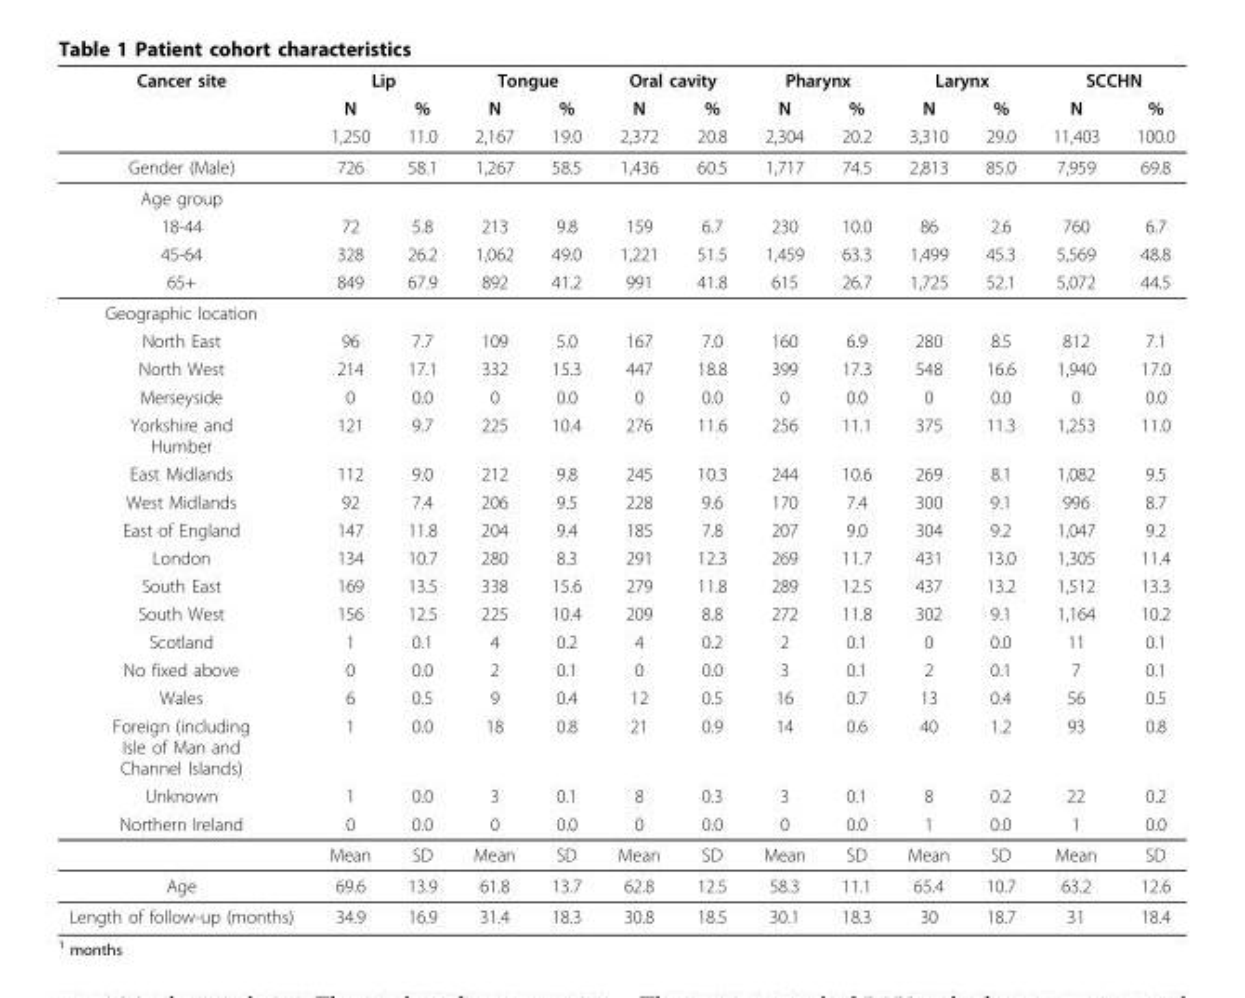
<table><thead><tr><td rowspan="3">Cancer site</td><td colspan="2">Lip</td><td colspan="2">Tongue</td><td colspan="2">Oral cavity</td><td colspan="2">Pharynx</td><td colspan="2">Larynx</td><td colspan="2">SCCHN</td></tr><tr><td rowspan="2">N 1,250</td><td rowspan="2">% 11.0</td><td rowspan="2">N 2,167</td><td rowspan="2">% 19.0</td><td rowspan="2">N 2,372</td><td rowspan="2">% 20.8</td><td rowspan="2">N 2,304</td><td rowspan="2">% 20.2</td><td rowspan="2">N 3,310</td><td rowspan="2">% 29.0</td><td rowspan="2">N 11,403</td><td rowspan="2">% 100.0</td></tr><tr></tr></thead><tbody><tr><td>Gender (Male)</td><td>726</td><td>58.1</td><td>1,267</td><td>58.5</td><td>1,436</td><td>60.5</td><td>1,717</td><td>74.5</td><td>2,813</td><td>85.0</td><td>7,959</td><td>69.8</td></tr><tr><td colspan="13">Age group</td></tr><tr><td>18-44</td><td>72</td><td>5.8</td><td>213</td><td>9.8</td><td>159</td><td>6.7</td><td>230</td><td>10.0</td><td>86</td><td>2.6</td><td>760</td><td>6.7</td></tr><tr><td>45-64</td><td>328</td><td>26.2</td><td>1,062</td><td>49.0</td><td>1,221</td><td>51.5</td><td>1,459</td><td>63.3</td><td>1,499</td><td>45.3</td><td>5,569</td><td>48.8</td></tr><tr><td>65+</td><td>849</td><td>67.9</td><td>892</td><td>41.2</td><td>991</td><td>41.8</td><td>615</td><td>26.7</td><td>1,725</td><td>52.1</td><td>5,072</td><td>44.5</td></tr><tr><td colspan="13">Geographic location</td></tr><tr><td>North East</td><td>96</td><td>7.7</td><td>109</td><td>5.0</td><td>167</td><td>7.0</td><td>160</td><td>6.9</td><td>280</td><td>8.5</td><td>812</td><td>7.1</td></tr><tr><td>North West</td><td>214</td><td>17.1</td><td>332</td><td>15.3</td><td>447</td><td>18.8</td><td>399</td><td>17.3</td><td>548</td><td>16.6</td><td>1,940</td><td>17.0</td></tr><tr><td>Merseyside</td><td>0</td><td>0.0</td><td>0</td><td>0.0</td><td>0</td><td>0.0</td><td>0</td><td>0.0</td><td>0</td><td>0.0</td><td>0</td><td>0.0</td></tr><tr><td>Yorkshire and Humber</td><td>121</td><td>9.7</td><td>225</td><td>10.4</td><td>276</td><td>11.6</td><td>256</td><td>11.1</td><td>375</td><td>11.3</td><td>1,253</td><td>11.0</td></tr><tr><td>East Midlands</td><td>112</td><td>9.0</td><td>212</td><td>9.8</td><td>245</td><td>10.3</td><td>244</td><td>10.6</td><td>269</td><td>8.1</td><td>1,082</td><td>9.5</td></tr><tr><td>West Midlands</td><td>92</td><td>7.4</td><td>206</td><td>9.5</td><td>228</td><td>9.6</td><td>170</td><td>7.4</td><td>300</td><td>9.1</td><td>996</td><td>8.7</td></tr><tr><td>East of England</td><td>147</td><td>11.8</td><td>204</td><td>9.4</td><td>185</td><td>7.8</td><td>207</td><td>9.0</td><td>304</td><td>9.2</td><td>1,047</td><td>9.2</td></tr><tr><td>London</td><td>134</td><td>10.7</td><td>280</td><td>8.3</td><td>291</td><td>12.3</td><td>269</td><td>11.7</td><td>431</td><td>13.0</td><td>1,305</td><td>11.4</td></tr><tr><td>South East</td><td>169</td><td>13.5</td><td>338</td><td>15.6</td><td>279</td><td>11.8</td><td>289</td><td>12.5</td><td>437</td><td>13.2</td><td>1,512</td><td>13.3</td></tr><tr><td>South West</td><td>156</td><td>12.5</td><td>225</td><td>10.4</td><td>209</td><td>8.8</td><td>272</td><td>11.8</td><td>302</td><td>9.1</td><td>1,164</td><td>10.2</td></tr><tr><td>Scotland</td><td>1</td><td>0.1</td><td>4</td><td>0.2</td><td>4</td><td>0.2</td><td>2</td><td>0.1</td><td>0</td><td>0.0</td><td>11</td><td>0.1</td></tr><tr><td>No fixed above</td><td>0</td><td>0.0</td><td>2</td><td>0.1</td><td>0</td><td>0.0</td><td>3</td><td>0.1</td><td>2</td><td>0.1</td><td>7</td><td>0.1</td></tr><tr><td>Wales</td><td>6</td><td>0.5</td><td>9</td><td>0.4</td><td>12</td><td>0.5</td><td>16</td><td>0.7</td><td>13</td><td>0.4</td><td>56</td><td>0.5</td></tr><tr><td>Foreign (including Isle of Man and Channel Islands)</td><td>1</td><td>0.0</td><td>18</td><td>0.8</td><td>21</td><td>0.9</td><td>14</td><td>0.6</td><td>40</td><td>1.2</td><td>93</td><td>0.8</td></tr><tr><td>Unknown</td><td>1</td><td>0.0</td><td>3</td><td>0.1</td><td>8</td><td>0.3</td><td>3</td><td>0.1</td><td>8</td><td>0.2</td><td>22</td><td>0.2</td></tr><tr><td rowspan="2">Northern Ireland</td><td>0</td><td>0.0</td><td>0</td><td>0.0</td><td>0</td><td>0.0</td><td>0</td><td>0.0</td><td>1</td><td>0.0</td><td>1</td><td>0.0</td></tr><tr><td>Mean</td><td>SD</td><td>Mean</td><td>SD</td><td>Mean</td><td>SD</td><td>Mean</td><td>SD</td><td>Mean</td><td>SD</td><td>Mean</td><td>SD</td></tr><tr><td>Age</td><td>69.6</td><td>13.9</td><td>61.8</td><td>13.7</td><td>62.8</td><td>12.5</td><td>58.3</td><td>11.1</td><td>65.4</td><td>10.7</td><td>63.2</td><td>12.6</td></tr><tr><td>Length of follow-up (months)</td><td>34.9</td><td>16.9</td><td>31.4</td><td>18.3</td><td>30.8</td><td>18.5</td><td>30.1</td><td>18.3</td><td>30</td><td>18.7</td><td>31</td><td>18.4</td></tr></tbody></table>